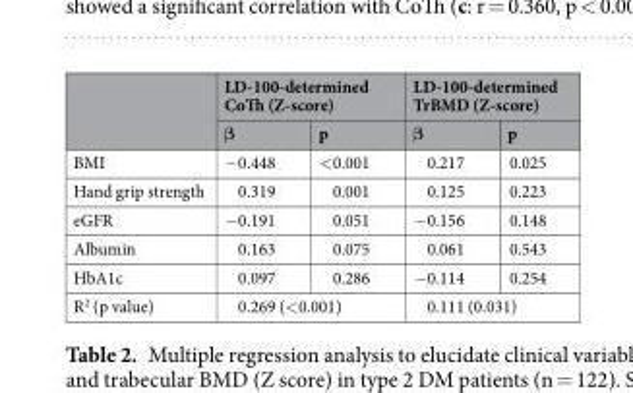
<table><thead><tr><td rowspan="2"></td><td colspan="2">LD-100-determined CoTh (Z-score)</td><td colspan="2">LD-100-determined TrBMD (Z-score)</td></tr><tr><td>β</td><td>p</td><td>β</td><td>p</td></tr></thead><tbody><tr><td>BMI</td><td>−0.448</td><td>&lt;0.001</td><td>0.217</td><td>0.025</td></tr><tr><td>Hand grip strength</td><td>0.319</td><td>0.001</td><td>0.125</td><td>0.223</td></tr><tr><td>eGFR</td><td>−0.191</td><td>0.051</td><td>−0.156</td><td>0.148</td></tr><tr><td>Albumin</td><td>0.163</td><td>0.075</td><td>0.061</td><td>0.543</td></tr><tr><td>HbA1c</td><td>0.097</td><td>0.286</td><td>−0.114</td><td>0.254</td></tr><tr><td>R<sup>2</sup> (p value)</td><td colspan="2">0.269 (&lt;0.001)</td><td colspan="2">0.111 (0.031)</td></tr></tbody></table>